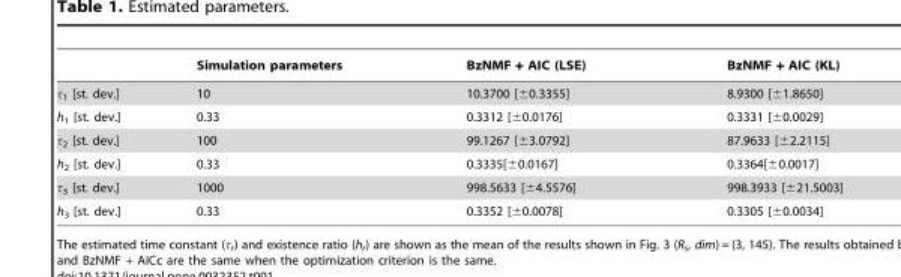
<table><thead><tr><td></td><td>Simulation parameters</td><td>BzNMF + AIC (LSE)</td><td>BzNMF + AIC (KL)</td></tr></thead><tbody><tr><td>τ<sub>1</sub> [st. dev.]</td><td>10</td><td>10.3700 [±0.3355]</td><td>8.9300 [±1.8650]</td></tr><tr><td>h<sub>1</sub> [st. dev.]</td><td>0.33</td><td>0.3312 [±0.0176]</td><td>0.3331 [±0.0029]</td></tr><tr><td>τ<sub>2</sub> [st. dev.]</td><td>100</td><td>99.1267 [±3.0792]</td><td>87.9633 [±2.2115]</td></tr><tr><td>h<sub>2</sub> [st. dev.]</td><td>0.33</td><td>0.3335[±0.0167]</td><td>0.3364[±0.0017]</td></tr><tr><td>τ<sub>3</sub> [st. dev.]</td><td>1000</td><td>998.5633 [±4.5576]</td><td>998.3933 [±21.5003]</td></tr><tr><td>h<sub>3</sub> [st. dev.]</td><td>0.33</td><td>0.3352 [±0.0078]</td><td>0.3305 [±0.0034]</td></tr></tbody></table>